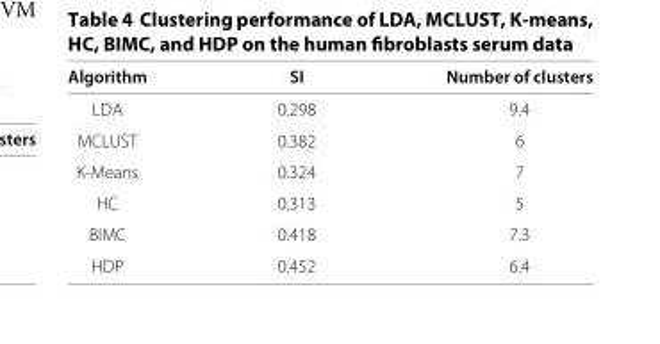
<table><thead><tr><td>Algorithm</td><td>SI</td><td>Number of clusters</td></tr></thead><tbody><tr><td>LDA</td><td>0.298</td><td>9.4</td></tr><tr><td>MCLUST</td><td>0.382</td><td>6</td></tr><tr><td>K-Means</td><td>0.324</td><td>7</td></tr><tr><td>HC</td><td>0.313</td><td>5</td></tr><tr><td>BIMC</td><td>0.418</td><td>7.3</td></tr><tr><td>HDP</td><td>0.452</td><td>6.4</td></tr></tbody></table>